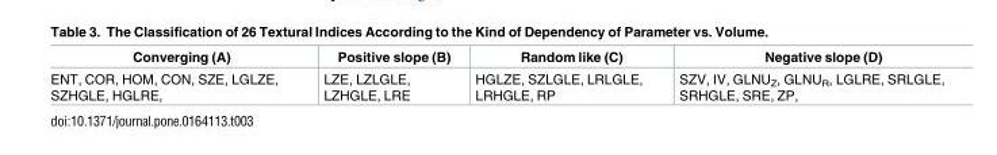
<table><thead><tr><td>Converging (A)</td><td>Positive slope (B)</td><td>Random like (C)</td><td>Negative slope (D)</td></tr></thead><tbody><tr><td>ENT, COR, HOM, CON, SZE, LGLZE, SZHGLE, HGLRE,</td><td>LZE, LZLGLE, LZHGLE, LRE</td><td>HGLZE, SZLGLE, LRLGLE, LRHGLE, RP</td><td>SZV, IV, GLNU<sub>Z</sub>, GLNU<sub>R</sub>, LGLRE, SRLGLE, SRHGLE, SRE, ZP,</td></tr></tbody></table>